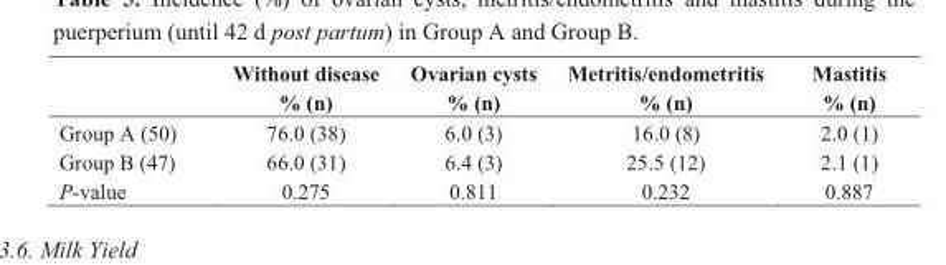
<table><thead><tr><td></td><td>Without disease % (n)</td><td>Ovarian cysts % (n)</td><td>Metritis/endometritis % (n)</td><td>Mastitis % (n)</td></tr></thead><tbody><tr><td>Group A (50)</td><td>76.0 (38)</td><td>6.0 (3)</td><td>16.0 (8)</td><td>2.0 (1)</td></tr><tr><td>Group B (47)</td><td>66.0 (31)</td><td>6.4 (3)</td><td>25.5 (12)</td><td>2.1 (1)</td></tr><tr><td>P-value</td><td>0.275</td><td>0.811</td><td>0.232</td><td>0.887</td></tr></tbody></table>